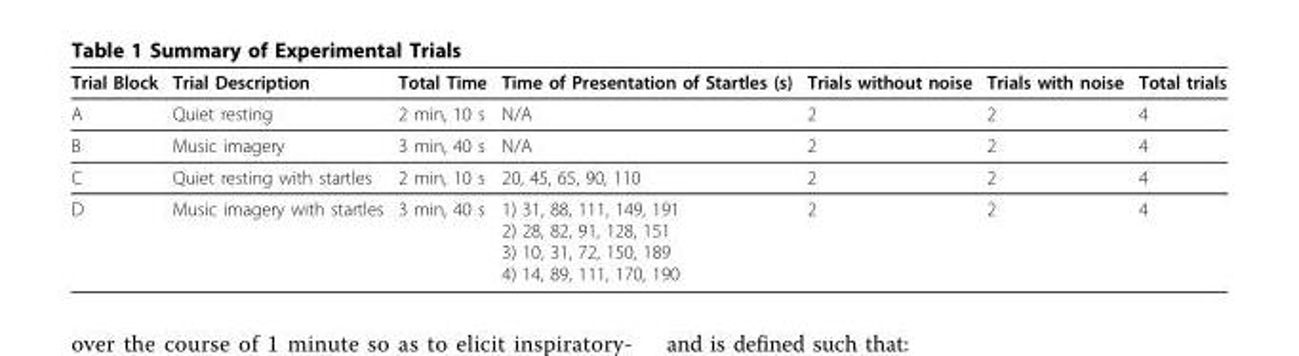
<table><thead><tr><td>Trial Block</td><td>Trial Description</td><td>Total Time</td><td>Time of Presentation of Startles (s)</td><td>Trials without noise</td><td>Trials with noise</td><td>Total trials</td></tr></thead><tbody><tr><td>A</td><td>Quiet resting</td><td>2 min, 10 s</td><td>N/A</td><td>2</td><td>2</td><td>4</td></tr><tr><td>B</td><td>Music imagery</td><td>3 min, 40 s</td><td>N/A</td><td>2</td><td>2</td><td>4</td></tr><tr><td>C</td><td>Quiet resting with startles</td><td>2 min, 10 s</td><td>20, 45, 65, 90, 110</td><td>2</td><td>2</td><td>4</td></tr><tr><td>D</td><td>Music imagery with startles</td><td>3 min, 40 s</td><td>1) 31, 88, 111, 149, 191 2) 28, 82, 91, 128, 151 3) 10, 31, 72, 150, 189 4) 14, 89, 111, 170, 190</td><td>2</td><td>2</td><td>4</td></tr></tbody></table>